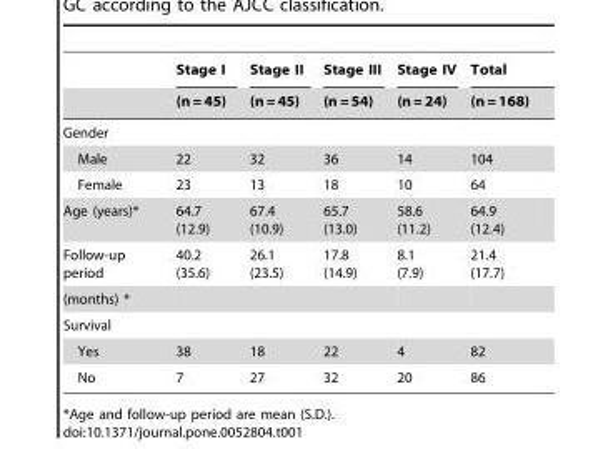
<table><thead><tr><td rowspan="2"></td><td rowspan="2">Stage I (n = 45)</td><td rowspan="2">Stage II (n = 45)</td><td rowspan="2">Stage III (n = 54)</td><td rowspan="2">Stage IV (n = 24)</td><td rowspan="2">Total (n = 168)</td></tr><tr></tr></thead><tbody><tr><td colspan="6">Gender</td></tr><tr><td>Male</td><td>22</td><td>32</td><td>36</td><td>14</td><td>104</td></tr><tr><td>Female</td><td>23</td><td>13</td><td>18</td><td>10</td><td>64</td></tr><tr><td>Age (years)*</td><td>64.7 (12.9)</td><td>67.4 (10.9)</td><td>65.7 (13.0)</td><td>58.6 (11.2)</td><td>64.9 (12.4)</td></tr><tr><td>Follow-up period</td><td>40.2 (35.6)</td><td>26.1 (23.5)</td><td>17.8 (14.9)</td><td>8.1 (7.9)</td><td>21.4 (17.7)</td></tr><tr><td colspan="6">(months) *</td></tr><tr><td colspan="6">Survival</td></tr><tr><td>Yes</td><td>38</td><td>18</td><td>22</td><td>4</td><td>82</td></tr><tr><td>No</td><td>7</td><td>27</td><td>32</td><td>20</td><td>86</td></tr></tbody></table>